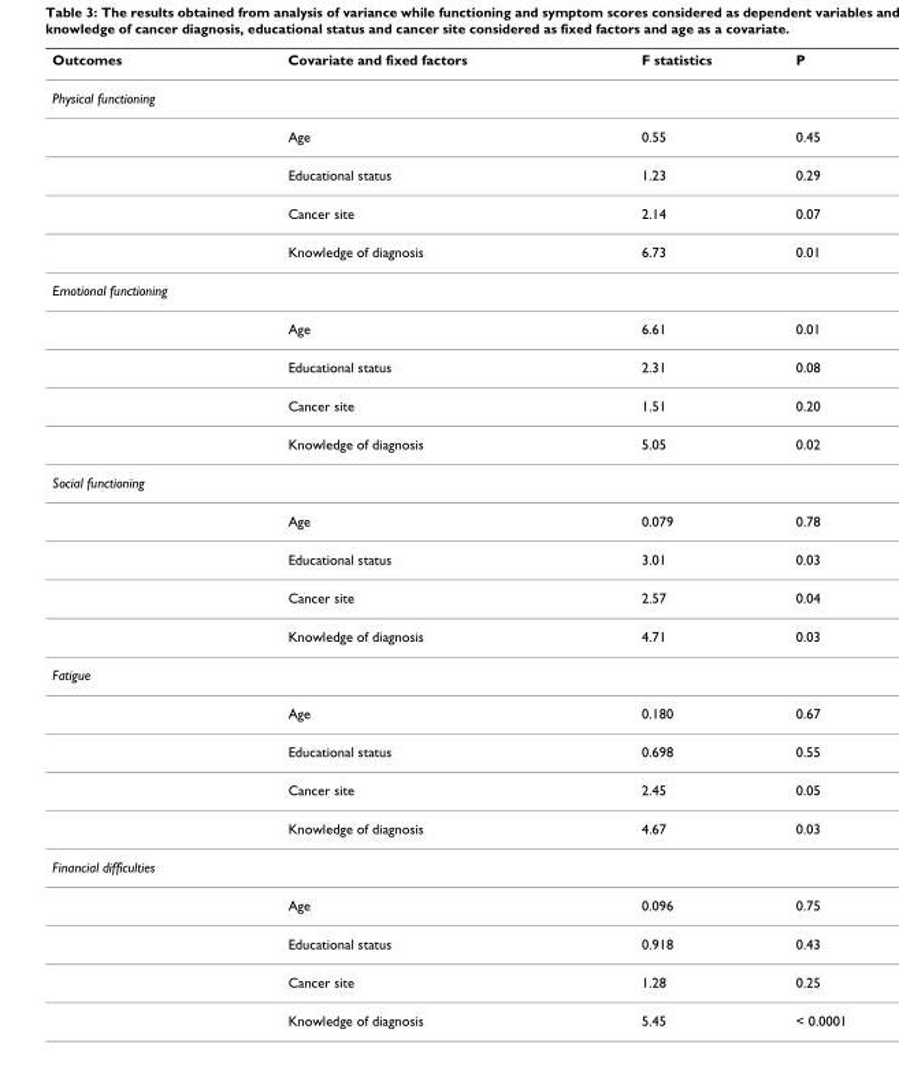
<table><thead><tr><td>Outcomes</td><td>Covariate and fixed factors</td><td>F statistics</td><td>P</td></tr></thead><tbody><tr><td colspan="4">Physical functioning</td></tr><tr><td></td><td>Age</td><td>0.55</td><td>0.45</td></tr><tr><td></td><td>Educational status</td><td>1.23</td><td>0.29</td></tr><tr><td></td><td>Cancer site</td><td>2.14</td><td>0.07</td></tr><tr><td></td><td>Knowledge of diagnosis</td><td>6.73</td><td>0.01</td></tr><tr><td colspan="4">Emotional functioning</td></tr><tr><td></td><td>Age</td><td>6.61</td><td>0.01</td></tr><tr><td></td><td>Educational status</td><td>2.31</td><td>0.08</td></tr><tr><td></td><td>Cancer site</td><td>1.51</td><td>0.20</td></tr><tr><td></td><td>Knowledge of diagnosis</td><td>5.05</td><td>0.02</td></tr><tr><td colspan="4">Social functioning</td></tr><tr><td></td><td>Age</td><td>0.079</td><td>0.78</td></tr><tr><td></td><td>Educational status</td><td>3.01</td><td>0.03</td></tr><tr><td></td><td>Cancer site</td><td>2.57</td><td>0.04</td></tr><tr><td></td><td>Knowledge of diagnosis</td><td>4.71</td><td>0.03</td></tr><tr><td colspan="4">Fatigue</td></tr><tr><td></td><td>Age</td><td>0.180</td><td>0.67</td></tr><tr><td></td><td>Educational status</td><td>0.698</td><td>0.55</td></tr><tr><td></td><td>Cancer site</td><td>2.45</td><td>0.05</td></tr><tr><td></td><td>Knowledge of diagnosis</td><td>4.67</td><td>0.03</td></tr><tr><td colspan="4">Financial difficulties</td></tr><tr><td></td><td>Age</td><td>0.096</td><td>0.75</td></tr><tr><td></td><td>Educational status</td><td>0.918</td><td>0.43</td></tr><tr><td></td><td>Cancer site</td><td>1.28</td><td>0.25</td></tr><tr><td></td><td>Knowledge of diagnosis</td><td>5.45</td><td>&lt; 0.0001</td></tr></tbody></table>